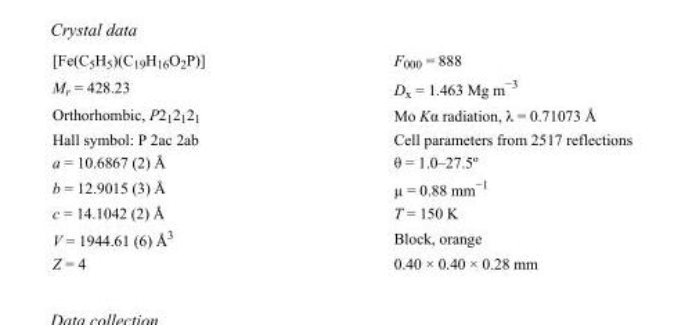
<table><tbody><tr><td>[Fe(C<sub>5</sub>H<sub>5</sub>)(C<sub>19</sub>H<sub>16</sub>O<sub>2</sub>P)]</td><td>F000 = 888</td></tr><tr><td>M<sub>r</sub> = 428.23</td><td>D<sub>x</sub> = 1.463 Mg m<sup>−3</sup></td></tr><tr><td>Orthorhombic, P2<sub>1</sub>2<sub>1</sub>2<sub>1</sub></td><td>Mo Kα radiation, λ = 0.71073 Å</td></tr><tr><td>Hall symbol: P 2ac 2ab</td><td>Cell parameters from 2517 reflections</td></tr><tr><td>a = 10.6867 (2) Å</td><td>θ = 1.0–27.5º</td></tr><tr><td>b = 12.9015 (3) Å</td><td>µ = 0.88 mm<sup>−1</sup></td></tr><tr><td>c = 14.1042 (2) Å</td><td>T = 150 K</td></tr><tr><td>V = 1944.61 (6) Å<sup>3</sup></td><td>Block, orange</td></tr><tr><td>Z = 4</td><td>0.40 × 0.40 × 0.28 mm</td></tr></tbody></table>